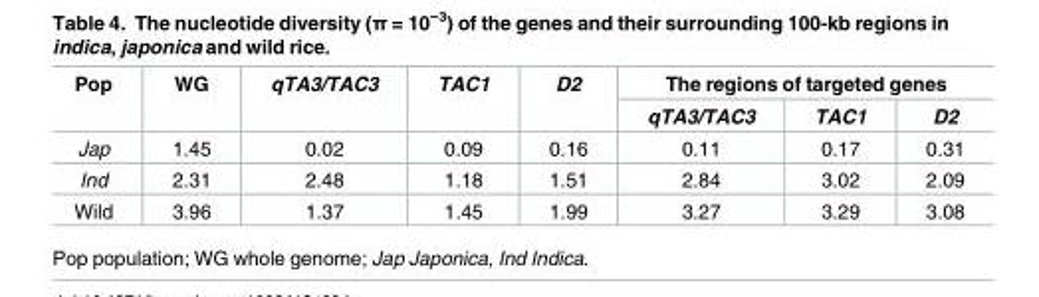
<table><thead><tr><td rowspan="2">Pop</td><td rowspan="2">WG</td><td rowspan="2">qTA3/TAC3</td><td rowspan="2">TAC1</td><td rowspan="2">D2</td><td colspan="3">The regions of targeted genes</td></tr><tr><td>qTA3/TAC3</td><td>TAC1</td><td>D2</td></tr></thead><tbody><tr><td>Jap</td><td>1.45</td><td>0.02</td><td>0.09</td><td>0.16</td><td>0.11</td><td>0.17</td><td>0.31</td></tr><tr><td>Ind</td><td>2.31</td><td>2.48</td><td>1.18</td><td>1.51</td><td>2.84</td><td>3.02</td><td>2.09</td></tr><tr><td>Wild</td><td>3.96</td><td>1.37</td><td>1.45</td><td>1.99</td><td>3.27</td><td>3.29</td><td>3.08</td></tr></tbody></table>